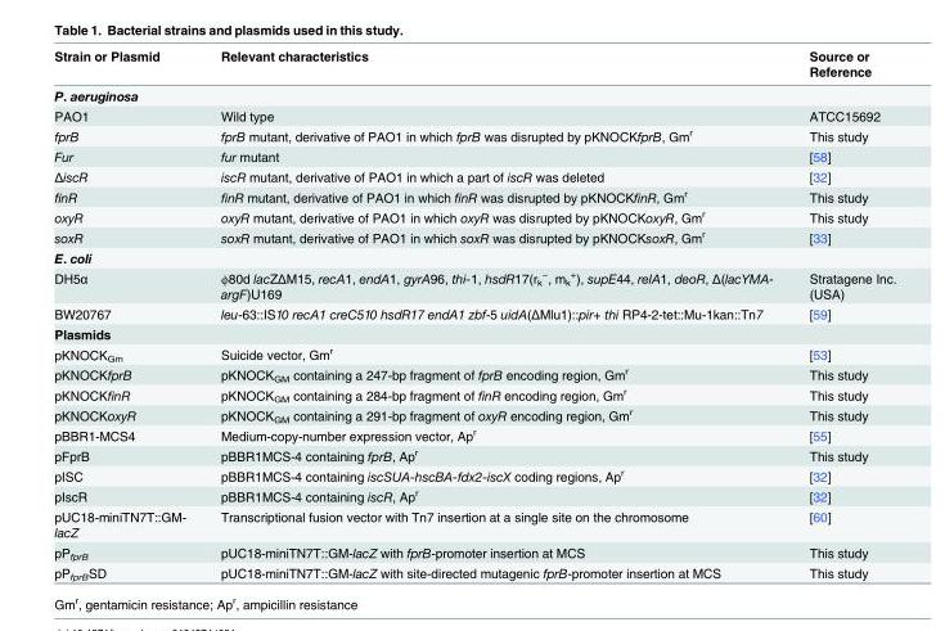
<table><thead><tr><td>Strain or Plasmid</td><td>Relevant characteristics</td><td>Source or Reference</td></tr></thead><tbody><tr><td colspan="3">P. aeruginosa</td></tr><tr><td>PAO1</td><td>Wild type</td><td>ATCC15692</td></tr><tr><td>fprB</td><td>fprB mutant, derivative of PAO1 in which fprB was disrupted by pKNOCKfprB, Gm<sup>r</sup></td><td>This study</td></tr><tr><td>Fur</td><td>fur mutant</td><td>[58]</td></tr><tr><td>ΔiscR</td><td>iscR mutant, derivative of PAO1 in which a part of iscR was deleted</td><td>[32]</td></tr><tr><td>finR</td><td>finR mutant, derivative of PAO1 in which finR was disrupted by pKNOCKfinR, Gm<sup>r</sup></td><td>This study</td></tr><tr><td>oxyR</td><td>oxyR mutant, derivative of PAO1 in which oxyR was disrupted by pKNOCKoxyR, Gm<sup>r</sup></td><td>This study</td></tr><tr><td>soxR</td><td>soxR mutant, derivative of PAO1 in which soxR was disrupted by pKNOCKsoxR, Gm<sup>r</sup></td><td>[33]</td></tr><tr><td colspan="3">E. coli</td></tr><tr><td>DH5α</td><td>ϕ80d lacZΔM15, recA1, endA1, gyrA96, thi-1, hsdR17(r<sub>k</sub> <sup>−</sup>, m<sub>k</sub> <sup>+</sup>), supE44, relA1, deoR, Δ(lacYMA- argF)U169</td><td>Stratagene Inc. (USA)</td></tr><tr><td>BW20767</td><td>leu-63::IS10 recA1 creC510 hsdR17 endA1 zbf-5 uidA(ΔMlu1)::pir+ thi RP4-2-tet::Mu-1kan::Tn7</td><td>[59]</td></tr><tr><td colspan="3">Plasmids</td></tr><tr><td>pKNOCK<sub>Gm</sub></td><td>Suicide vector, Gm<sup>r</sup></td><td>[53]</td></tr><tr><td>pKNOCKfprB</td><td>pKNOCK<sub>GM</sub> containing a 247-bp fragment of fprB encoding region, Gm<sup>r</sup></td><td>This study</td></tr><tr><td>pKNOCKfinR</td><td>pKNOCK<sub>GM</sub> containing a 284-bp fragment of finR encoding region, Gm<sup>r</sup></td><td>This study</td></tr><tr><td>pKNOCKoxyR</td><td>pKNOCK<sub>GM</sub> containing a 291-bp fragment of oxyR encoding region, Gm<sup>r</sup></td><td>This study</td></tr><tr><td>pBBR1-MCS4</td><td>Medium-copy-number expression vector, Ap<sup>r</sup></td><td>[55]</td></tr><tr><td>pFprB</td><td>pBBR1MCS-4 containing fprB, Ap<sup>r</sup></td><td>This study</td></tr><tr><td>pISC</td><td>pBBR1MCS-4 containing iscSUA-hscBA-fdx2-iscX coding regions, Ap<sup>r</sup></td><td>[32]</td></tr><tr><td>pIscR</td><td>pBBR1MCS-4 containing iscR, Ap<sup>r</sup></td><td>[32]</td></tr><tr><td>pUC18-miniTN7T::GM- lacZ</td><td>Transcriptional fusion vector with Tn7 insertion at a single site on the chromosome</td><td>[60]</td></tr><tr><td>pP<sub>fprB</sub></td><td>pUC18-miniTN7T::GM-lacZ with fprB-promoter insertion at MCS</td><td>This study</td></tr><tr><td>pP<sub>fprB</sub>SD</td><td>pUC18-miniTN7T::GM-lacZ with site-directed mutagenic fprB-promoter insertion at MCS</td><td>This study</td></tr></tbody></table>